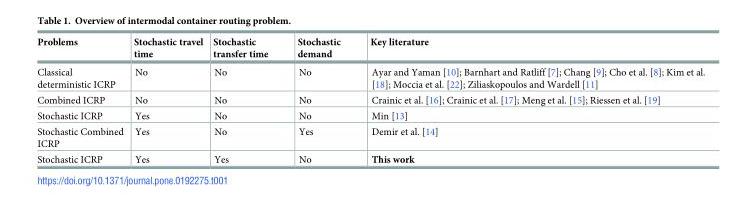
<table><thead><tr><td>Problems</td><td>Stochastic travel time</td><td>Stochastic transfer time</td><td>Stochastic demand</td><td>Key literature</td></tr></thead><tbody><tr><td>Classical deterministic ICRP</td><td>No</td><td>No</td><td>No</td><td>Ayar and Yaman [10]; Barnhart and Ratliff [7]; Chang [9]; Cho et al. [8]; Kim et al. [18]; Moccia et al. [22]; Ziliaskopoulos and Wardell [11]</td></tr><tr><td>Combined ICRP</td><td>No</td><td>No</td><td>No</td><td>Crainic et al. [16]; Crainic et al. [17]; Meng et al. [15]; Riessen et al. [19]</td></tr><tr><td>Stochastic ICRP</td><td>Yes</td><td>No</td><td>No</td><td>Min [13]</td></tr><tr><td>Stochastic Combined ICRP</td><td>Yes</td><td>No</td><td>Yes</td><td>Demir et al. [14]</td></tr><tr><td>Stochastic ICRP</td><td>Yes</td><td>Yes</td><td>No</td><td>This work</td></tr></tbody></table>